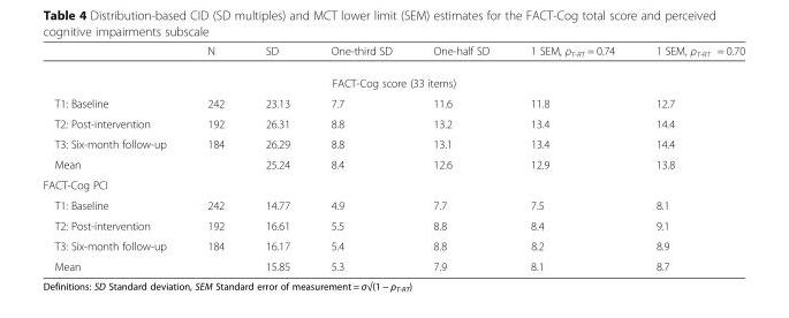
<table><thead><tr><td></td><td>N</td><td>SD</td><td>One-third SD</td><td>One-half SD</td><td>1 SEM, ρ<sub>T-RT</sub> = 0.74</td><td>1 SEM, ρ<sub>T-RT</sub> = 0.70</td></tr></thead><tbody><tr><td colspan="7">FACT-Cog score (33 items)</td></tr><tr><td>T1: Baseline</td><td>242</td><td>23.13</td><td>7.7</td><td>11.6</td><td>11.8</td><td>12.7</td></tr><tr><td>T2: Post-intervention</td><td>192</td><td>26.31</td><td>8.8</td><td>13.2</td><td>13.4</td><td>14.4</td></tr><tr><td>T3: Six-month follow-up</td><td>184</td><td>26.29</td><td>8.8</td><td>13.1</td><td>13.4</td><td>14.4</td></tr><tr><td>Mean</td><td></td><td>25.24</td><td>8.4</td><td>12.6</td><td>12.9</td><td>13.8</td></tr><tr><td colspan="7">FACT-Cog PCI</td></tr><tr><td>T1: Baseline</td><td>242</td><td>14.77</td><td>4.9</td><td>7.7</td><td>7.5</td><td>8.1</td></tr><tr><td>T2: Post-intervention</td><td>192</td><td>16.61</td><td>5.5</td><td>8.8</td><td>8.4</td><td>9.1</td></tr><tr><td>T3: Six-month follow-up</td><td>184</td><td>16.17</td><td>5.4</td><td>8.8</td><td>8.2</td><td>8.9</td></tr><tr><td>Mean</td><td></td><td>15.85</td><td>5.3</td><td>7.9</td><td>8.1</td><td>8.7</td></tr></tbody></table>